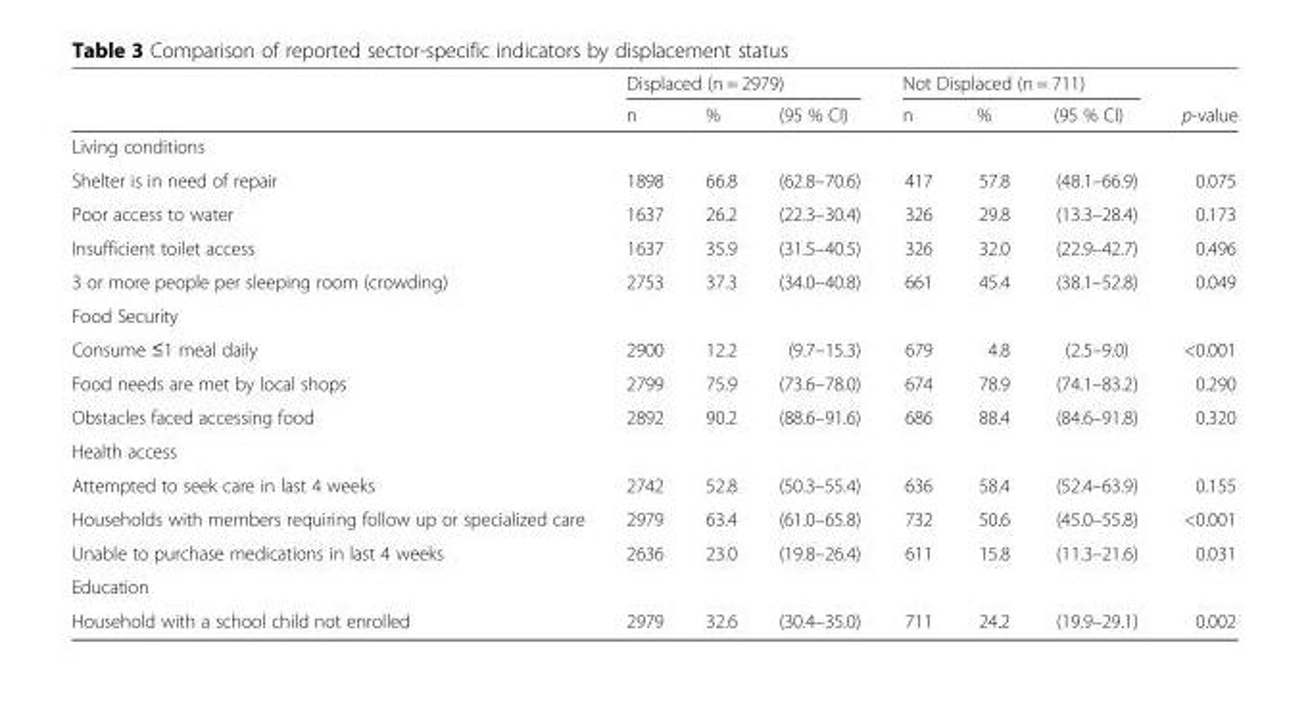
<table><thead><tr><td rowspan="2"></td><td colspan="3">Displaced (n = 2979)</td><td colspan="3">Not Displaced (n = 711)</td><td rowspan="2">p-value</td></tr><tr><td>n</td><td>%</td><td>(95 % CI)</td><td>n</td><td>%</td><td>(95 % CI)</td></tr></thead><tbody><tr><td colspan="8">Living conditions</td></tr><tr><td>Shelter is in need of repair</td><td>1898</td><td>66.8</td><td>(62.8–70.6)</td><td>417</td><td>57.8</td><td>(48.1–66.9)</td><td>0.075</td></tr><tr><td>Poor access to water</td><td>1637</td><td>26.2</td><td>(22.3–30.4)</td><td>326</td><td>29.8</td><td>(13.3–28.4)</td><td>0.173</td></tr><tr><td>Insufficient toilet access</td><td>1637</td><td>35.9</td><td>(31.5–40.5)</td><td>326</td><td>32.0</td><td>(22.9–42.7)</td><td>0.496</td></tr><tr><td>3 or more people per sleeping room (crowding)</td><td>2753</td><td>37.3</td><td>(34.0–40.8)</td><td>661</td><td>45.4</td><td>(38.1–52.8)</td><td>0.049</td></tr><tr><td colspan="8">Food Security</td></tr><tr><td>Consume ≤1 meal daily</td><td>2900</td><td>12.2</td><td>(9.7–15.3)</td><td>679</td><td>4.8</td><td>(2.5–9.0)</td><td>&lt;0.001</td></tr><tr><td>Food needs are met by local shops</td><td>2799</td><td>75.9</td><td>(73.6–78.0)</td><td>674</td><td>78.9</td><td>(74.1–83.2)</td><td>0.290</td></tr><tr><td>Obstacles faced accessing food</td><td>2892</td><td>90.2</td><td>(88.6–91.6)</td><td>686</td><td>88.4</td><td>(84.6–91.8)</td><td>0.320</td></tr><tr><td colspan="8">Health access</td></tr><tr><td>Attempted to seek care in last 4 weeks</td><td>2742</td><td>52.8</td><td>(50.3–55.4)</td><td>636</td><td>58.4</td><td>(52.4–63.9)</td><td>0.155</td></tr><tr><td>Households with members requiring follow up or specialized care</td><td>2979</td><td>63.4</td><td>(61.0–65.8)</td><td>732</td><td>50.6</td><td>(45.0–55.8)</td><td>&lt;0.001</td></tr><tr><td>Unable to purchase medications in last 4 weeks</td><td>2636</td><td>23.0</td><td>(19.8–26.4)</td><td>611</td><td>15.8</td><td>(11.3–21.6)</td><td>0.031</td></tr><tr><td colspan="8">Education</td></tr><tr><td>Household with a school child not enrolled</td><td>2979</td><td>32.6</td><td>(30.4–35.0)</td><td>711</td><td>24.2</td><td>(19.9–29.1)</td><td>0.002</td></tr></tbody></table>